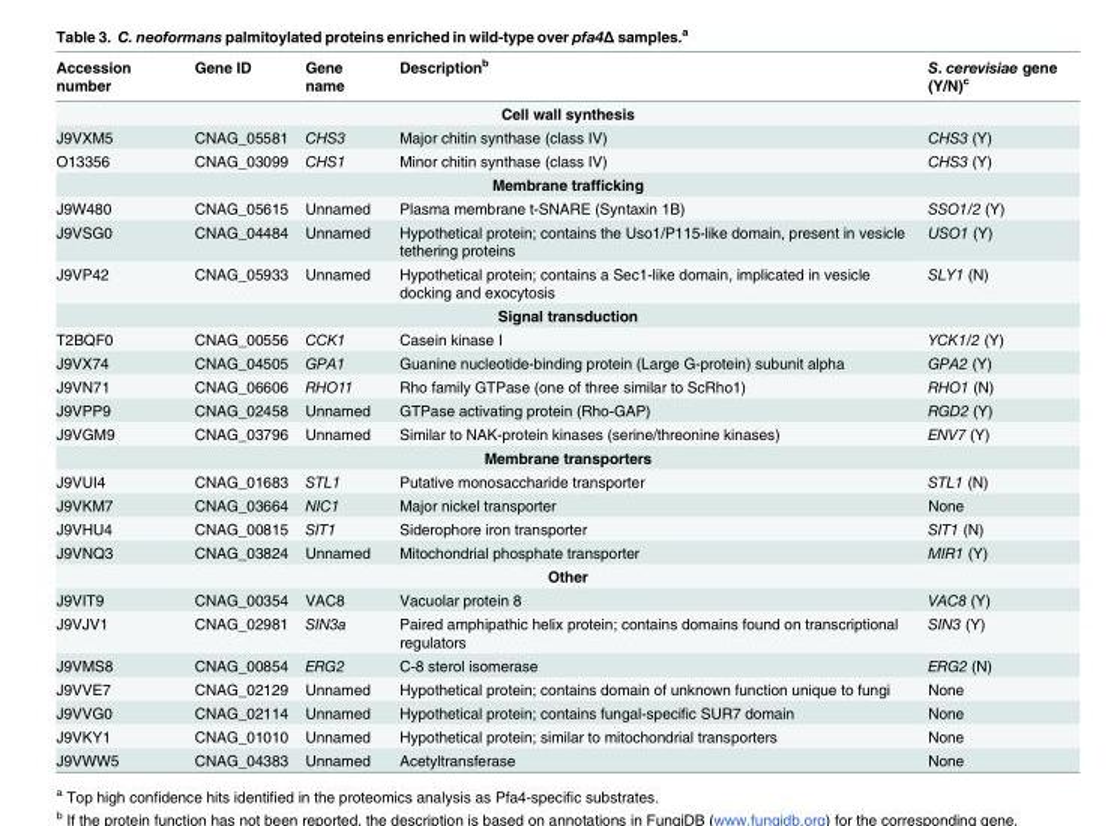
<table><thead><tr><td>Accession number</td><td>Gene ID</td><td>Gene name</td><td>Description<sup>b</sup></td><td>S. cerevisiae gene (Y/N)<sup>c</sup></td></tr></thead><tbody><tr><td colspan="5">Cell wall synthesis</td></tr><tr><td>J9VXM5</td><td>CNAG_05581</td><td>CHS3</td><td>Major chitin synthase (class IV)</td><td>CHS3 (Y)</td></tr><tr><td>O13356</td><td>CNAG_03099</td><td>CHS1</td><td>Minor chitin synthase (class IV)</td><td>CHS3 (Y)</td></tr><tr><td colspan="5">Membrane trafficking</td></tr><tr><td>J9W480</td><td>CNAG_05615</td><td>Unnamed</td><td>Plasma membrane t-SNARE (Syntaxin 1B)</td><td>SSO1/2 (Y)</td></tr><tr><td>J9VSG0</td><td>CNAG_04484</td><td>Unnamed</td><td>Hypothetical protein; contains the Uso1/P115-like domain, present in vesicle tethering proteins</td><td>USO1 (Y)</td></tr><tr><td>J9VP42</td><td>CNAG_05933</td><td>Unnamed</td><td>Hypothetical protein; contains a Sec1-like domain, implicated in vesicle docking and exocytosis</td><td>SLY1 (N)</td></tr><tr><td colspan="5">Signal transduction</td></tr><tr><td>T2BQF0</td><td>CNAG_00556</td><td>CCK1</td><td>Casein kinase I</td><td>YCK1/2 (Y)</td></tr><tr><td>J9VX74</td><td>CNAG_04505</td><td>GPA1</td><td>Guanine nucleotide-binding protein (Large G-protein) subunit alpha</td><td>GPA2 (Y)</td></tr><tr><td>J9VN71</td><td>CNAG_06606</td><td>RHO11</td><td>Rho family GTPase (one of three similar to ScRho1)</td><td>RHO1 (N)</td></tr><tr><td>J9VPP9</td><td>CNAG_02458</td><td>Unnamed</td><td>GTPase activating protein (Rho-GAP)</td><td>RGD2 (Y)</td></tr><tr><td>J9VGM9</td><td>CNAG_03796</td><td>Unnamed</td><td>Similar to NAK-protein kinases (serine/threonine kinases)</td><td>ENV7 (Y)</td></tr><tr><td colspan="5">Membrane transporters</td></tr><tr><td>J9VUI4</td><td>CNAG_01683</td><td>STL1</td><td>Putative monosaccharide transporter</td><td>STL1 (N)</td></tr><tr><td>J9VKM7</td><td>CNAG_03664</td><td>NIC1</td><td>Major nickel transporter</td><td>None</td></tr><tr><td>J9VHU4</td><td>CNAG_00815</td><td>SIT1</td><td>Siderophore iron transporter</td><td>SIT1 (N)</td></tr><tr><td>J9VNQ3</td><td>CNAG_03824</td><td>Unnamed</td><td>Mitochondrial phosphate transporter</td><td>MIR1 (Y)</td></tr><tr><td colspan="5">Other</td></tr><tr><td>J9VIT9</td><td>CNAG_00354</td><td>VAC8</td><td>Vacuolar protein 8</td><td>VAC8 (Y)</td></tr><tr><td>J9VJV1</td><td>CNAG_02981</td><td>SIN3a</td><td>Paired amphipathic helix protein; contains domains found on transcriptional regulators</td><td>SIN3 (Y)</td></tr><tr><td>J9VMS8</td><td>CNAG_00854</td><td>ERG2</td><td>C-8 sterol isomerase</td><td>ERG2 (N)</td></tr><tr><td>J9VVE7</td><td>CNAG_02129</td><td>Unnamed</td><td>Hypothetical protein; contains domain of unknown function unique to fungi</td><td>None</td></tr><tr><td>J9VVG0</td><td>CNAG_02114</td><td>Unnamed</td><td>Hypothetical protein; contains fungal-specific SUR7 domain</td><td>None</td></tr><tr><td>J9VKY1</td><td>CNAG_01010</td><td>Unnamed</td><td>Hypothetical protein; similar to mitochondrial transporters</td><td>None</td></tr><tr><td>J9VWW5</td><td>CNAG_04383</td><td>Unnamed</td><td>Acetyltransferase</td><td>None</td></tr></tbody></table>